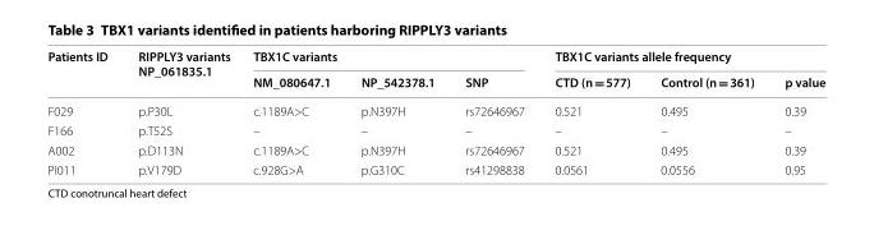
<table><thead><tr><td rowspan="2">Patients ID</td><td rowspan="2">RIPPLY3 variants NP_061835.1</td><td colspan="3">TBX1C variants</td><td colspan="3">TBX1C variants allele frequency</td></tr><tr><td>NM_080647.1</td><td>NP_542378.1</td><td>SNP</td><td>CTD (n = 577)</td><td>Control (n = 361)</td><td>p value</td></tr></thead><tbody><tr><td>F029</td><td>p.P30L</td><td>c.1189A&gt;C</td><td>p.N397H</td><td>rs72646967</td><td>0.521</td><td>0.495</td><td>0.39</td></tr><tr><td>F166</td><td>p.T52S</td><td>–</td><td>–</td><td>–</td><td>–</td><td>–</td><td>–</td></tr><tr><td>A002</td><td>p.D113N</td><td>c.1189A&gt;C</td><td>p.N397H</td><td>rs72646967</td><td>0.521</td><td>0.495</td><td>0.39</td></tr><tr><td>PI011</td><td>p.V179D</td><td>c.928G&gt;A</td><td>p.G310C</td><td>rs41298838</td><td>0.0561</td><td>0.0556</td><td>0.95</td></tr></tbody></table>